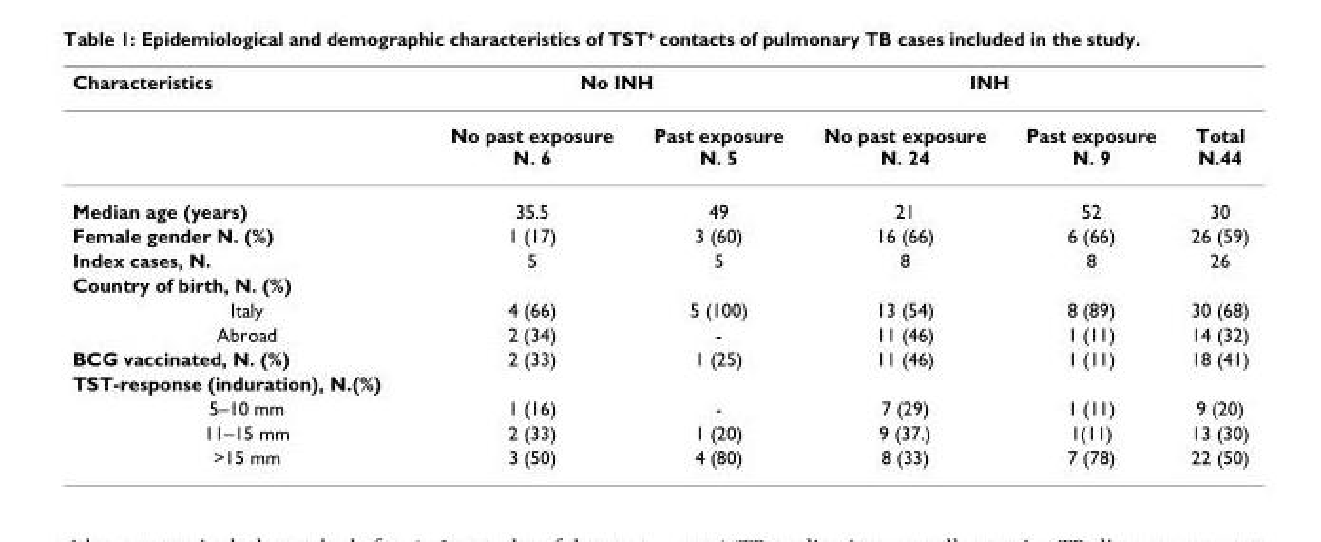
<table><thead><tr><td rowspan="2">Characteristics</td><td colspan="2">No INH</td><td colspan="2">INH</td><td rowspan="2">Total N.44</td></tr><tr><td>No past exposure N. 6</td><td>Past exposure N. 5</td><td>No past exposure N. 24</td><td>Past exposure N. 9</td></tr></thead><tbody><tr><td>Median age (years)</td><td>35.5</td><td>49</td><td>21</td><td>52</td><td>30</td></tr><tr><td>Female gender N. (%)</td><td>1 (17)</td><td>3 (60)</td><td>16 (66)</td><td>6 (66)</td><td>26 (59)</td></tr><tr><td>Index cases, N.</td><td>5</td><td>5</td><td>8</td><td>8</td><td>26</td></tr><tr><td colspan="6">Country of birth, N. (%)</td></tr><tr><td>Italy</td><td>4 (66)</td><td>5 (100)</td><td>13 (54)</td><td>8 (89)</td><td>30 (68)</td></tr><tr><td>Abroad</td><td>2 (34)</td><td>-</td><td>11 (46)</td><td>1 (11)</td><td>14 (32)</td></tr><tr><td>BCG vaccinated, N. (%)</td><td>2 (33)</td><td>1 (25)</td><td>11 (46)</td><td>1 (11)</td><td>18 (41)</td></tr><tr><td colspan="6">TST-response (induration), N.(%)</td></tr><tr><td>5–10 mm</td><td>1 (16)</td><td>-</td><td>7 (29)</td><td>1 (11)</td><td>9 (20)</td></tr><tr><td>11–15 mm</td><td>2 (33)</td><td>1 (20)</td><td>9 (37.)</td><td>1(11)</td><td>13 (30)</td></tr><tr><td>&gt;15 mm</td><td>3 (50)</td><td>4 (80)</td><td>8 (33)</td><td>7 (78)</td><td>22 (50)</td></tr></tbody></table>